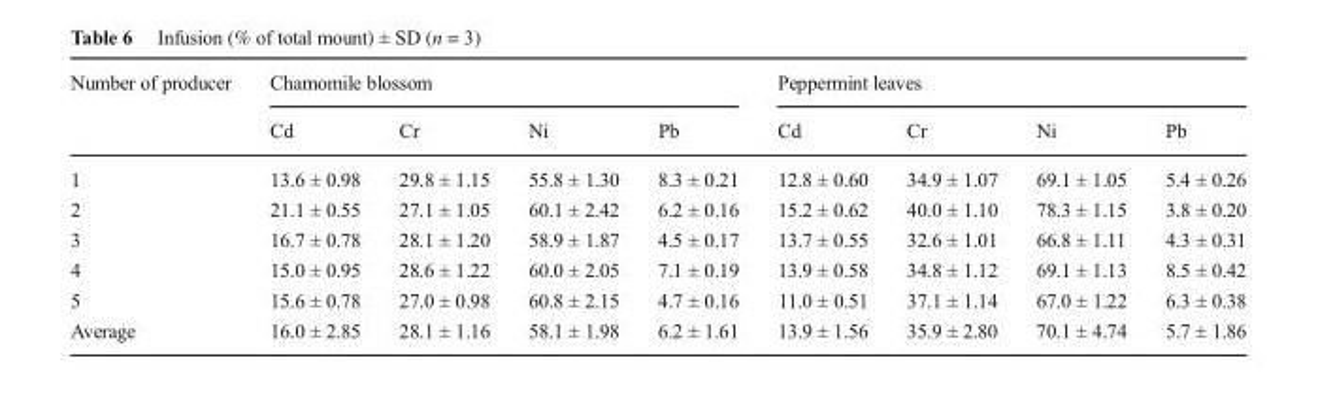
<table><thead><tr><td rowspan="2">Number of producer</td><td colspan="4">Chamomile blossom</td><td colspan="4">Peppermint leaves</td></tr><tr><td>Cd</td><td>Cr</td><td>Ni</td><td>Pb</td><td>Cd</td><td>Cr</td><td>Ni</td><td>Pb</td></tr></thead><tbody><tr><td>1</td><td>13.6 ± 0.98</td><td>29.8 ± 1.15</td><td>55.8 ± 1.30</td><td>8.3 ± 0.21</td><td>12.8 ± 0.60</td><td>34.9 ± 1.07</td><td>69.1 ± 1.05</td><td>5.4 ± 0.26</td></tr><tr><td>2</td><td>21.1 ± 0.55</td><td>27.1 ± 1.05</td><td>60.1 ± 2.42</td><td>6.2 ± 0.16</td><td>15.2 ± 0.62</td><td>40.0 ± 1.10</td><td>78.3 ± 1.15</td><td>3.8 ± 0.20</td></tr><tr><td>3</td><td>16.7 ± 0.78</td><td>28.1 ± 1.20</td><td>58.9 ± 1.87</td><td>4.5 ± 0.17</td><td>13.7 ± 0.55</td><td>32.6 ± 1.01</td><td>66.8 ± 1.11</td><td>4.3 ± 0.31</td></tr><tr><td>4</td><td>15.0 ± 0.95</td><td>28.6 ± 1.22</td><td>60.0 ± 2.05</td><td>7.1 ± 0.19</td><td>13.9 ± 0.58</td><td>34.8 ± 1.12</td><td>69.1 ± 1.13</td><td>8.5 ± 0.42</td></tr><tr><td>5</td><td>15.6 ± 0.78</td><td>27.0 ± 0.98</td><td>60.8 ± 2.15</td><td>4.7 ± 0.16</td><td>11.0 ± 0.51</td><td>37.1 ± 1.14</td><td>67.0 ± 1.22</td><td>6.3 ± 0.38</td></tr><tr><td>Average</td><td>16.0 ± 2.85</td><td>28.1 ± 1.16</td><td>58.1 ± 1.98</td><td>6.2 ± 1.61</td><td>13.9 ± 1.56</td><td>35.9 ± 2.80</td><td>70.1 ± 4.74</td><td>5.7 ± 1.86</td></tr></tbody></table>